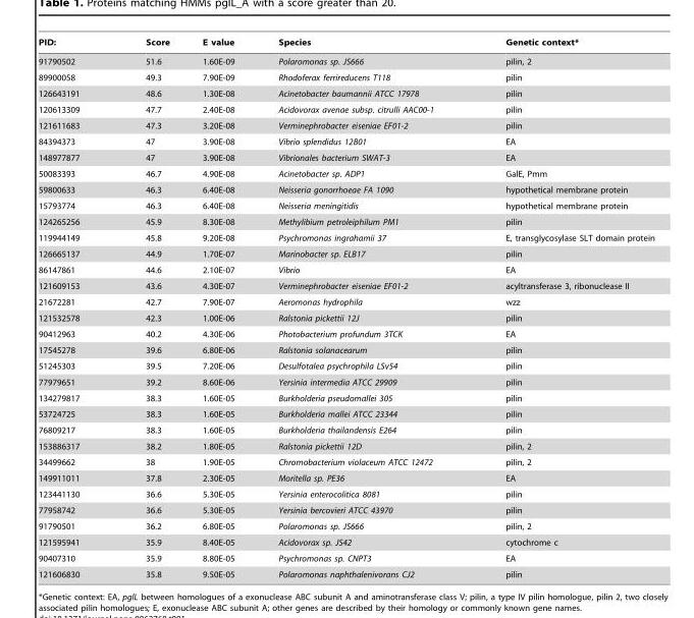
<table><thead><tr><td>PID:</td><td>Score</td><td>E value</td><td>Species</td><td>Genetic context*</td></tr></thead><tbody><tr><td>91790502</td><td>51.6</td><td>1.60E-09</td><td>Polaromonas sp. JS666</td><td>pilin, 2</td></tr><tr><td>89900058</td><td>49.3</td><td>7.90E-09</td><td>Rhodoferax ferrireducens T118</td><td>pilin</td></tr><tr><td>126643191</td><td>48.6</td><td>1.30E-08</td><td>Acinetobacter baumannii ATCC 17978</td><td>pilin</td></tr><tr><td>120613309</td><td>47.7</td><td>2.40E-08</td><td>Acidovorax avenae subsp. citrulli AAC00-1</td><td>pilin</td></tr><tr><td>121611683</td><td>47.3</td><td>3.20E-08</td><td>Verminephrobacter eiseniae EF01-2</td><td>pilin</td></tr><tr><td>84394373</td><td>47</td><td>3.90E-08</td><td>Vibrio splendidus 12B01</td><td>EA</td></tr><tr><td>148977877</td><td>47</td><td>3.90E-08</td><td>Vibrionales bacterium SWAT-3</td><td>EA</td></tr><tr><td>50083393</td><td>46.7</td><td>4.90E-08</td><td>Acinetobacter sp. ADP1</td><td>GalE, Pmm</td></tr><tr><td>59800633</td><td>46.3</td><td>6.40E-08</td><td>Neisseria gonorrhoeae FA 1090</td><td>hypothetical membrane protein</td></tr><tr><td>15793774</td><td>46.3</td><td>6.40E-08</td><td>Neisseria meningitidis</td><td>hypothetical membrane protein</td></tr><tr><td>124265256</td><td>45.9</td><td>8.30E-08</td><td>Methylibium petroleiphilum PM1</td><td>pilin</td></tr><tr><td>119944149</td><td>45.8</td><td>9.20E-08</td><td>Psychromonas ingrahamii 37</td><td>E, transglycosylase SLT domain protein</td></tr><tr><td>126665137</td><td>44.9</td><td>1.70E-07</td><td>Marinobacter sp. ELB17</td><td>pilin</td></tr><tr><td>86147861</td><td>44.6</td><td>2.10E-07</td><td>Vibrio</td><td>EA</td></tr><tr><td>121609153</td><td>43.6</td><td>4.30E-07</td><td>Verminephrobacter eiseniae EF01-2</td><td>acyltransferase 3, ribonuclease II</td></tr><tr><td>21672281</td><td>42.7</td><td>7.90E-07</td><td>Aeromonas hydrophila</td><td>wzz</td></tr><tr><td>121532578</td><td>42.3</td><td>1.00E-06</td><td>Ralstonia pickettii 12J</td><td>pilin</td></tr><tr><td>90412963</td><td>40.2</td><td>4.30E-06</td><td>Photobacterium profundum 3TCK</td><td>EA</td></tr><tr><td>17545278</td><td>39.6</td><td>6.80E-06</td><td>Ralstonia solanacearum</td><td>pilin</td></tr><tr><td>51245303</td><td>39.5</td><td>7.20E-06</td><td>Desulfotalea psychrophila LSv54</td><td>pilin</td></tr><tr><td>77979651</td><td>39.2</td><td>8.60E-06</td><td>Yersinia intermedia ATCC 29909</td><td>pilin</td></tr><tr><td>134279817</td><td>38.3</td><td>1.60E-05</td><td>Burkholderia pseudomallei 305</td><td>pilin</td></tr><tr><td>53724725</td><td>38.3</td><td>1.60E-05</td><td>Burkholderia mallei ATCC 23344</td><td>pilin</td></tr><tr><td>76809217</td><td>38.3</td><td>1.60E-05</td><td>Burkholderia thailandensis E264</td><td>pilin</td></tr><tr><td>153886317</td><td>38.2</td><td>1.80E-05</td><td>Ralstonia pickettii 12D</td><td>pilin, 2</td></tr><tr><td>34499662</td><td>38</td><td>1.90E-05</td><td>Chromobacterium violaceum ATCC 12472</td><td>pilin, 2</td></tr><tr><td>149911011</td><td>37.8</td><td>2.30E-05</td><td>Moritella sp. PE36</td><td>EA</td></tr><tr><td>123441130</td><td>36.6</td><td>5.30E-05</td><td>Yersinia enterocolitica 8081</td><td>pilin</td></tr><tr><td>77958742</td><td>36.6</td><td>5.30E-05</td><td>Yersinia bercovieri ATCC 43970</td><td>pilin</td></tr><tr><td>91790501</td><td>36.2</td><td>6.80E-05</td><td>Polaromonas sp. JS666</td><td>pilin, 2</td></tr><tr><td>121595941</td><td>35.9</td><td>8.40E-05</td><td>Acidovorax sp. JS42</td><td>cytochrome c</td></tr><tr><td>90407310</td><td>35.9</td><td>8.80E-05</td><td>Psychromonas sp. CNPT3</td><td>EA</td></tr><tr><td>121606830</td><td>35.8</td><td>9.50E-05</td><td>Polaromonas naphthalenivorans CJ2</td><td>pilin</td></tr></tbody></table>